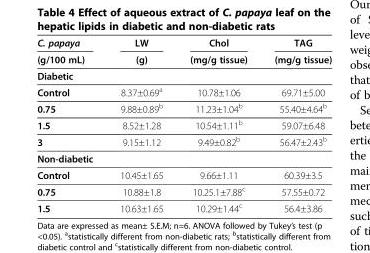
<table><thead><tr><td rowspan="2">C. papaya (g/100 mL)</td><td rowspan="2">LW (g)</td><td rowspan="2">Chol (mg/g tissue)</td><td rowspan="2">TAG (mg/g tissue)</td></tr><tr></tr></thead><tbody><tr><td colspan="4">Diabetic</td></tr><tr><td>Control</td><td>8.37±0.69<sup>a</sup></td><td>10.78±1.06</td><td>69.71±5.00</td></tr><tr><td>0.75</td><td>9.88±0.89<sup>b</sup></td><td>11.23±1.04<sup>b</sup></td><td>55.40±4.64<sup>b</sup></td></tr><tr><td>1.5</td><td>8.52±1.28</td><td>10.54±1.11<sup>b</sup></td><td>59.07±6.48</td></tr><tr><td>3</td><td>9.15±1.12</td><td>9.49±0.82<sup>b</sup></td><td>56.47±2.43<sup>b</sup></td></tr><tr><td colspan="4">Non-diabetic</td></tr><tr><td>Control</td><td>10.45±1.65</td><td>9.66±1.11</td><td>60.39±3.5</td></tr><tr><td>0.75</td><td>10.88±1.8</td><td>10.25.1±7.88<sup>c</sup></td><td>57.55±0.72</td></tr><tr><td>1.5</td><td>10.63±1.65</td><td>10.29±1.44<sup>c</sup></td><td>56.4±3.86</td></tr></tbody></table>